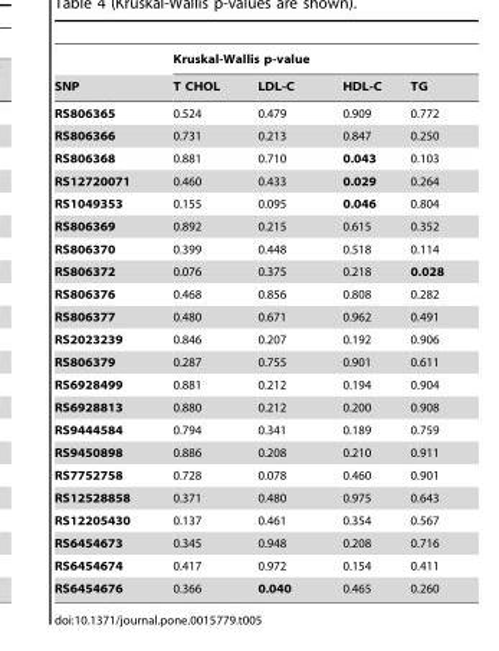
<table><thead><tr><td rowspan="2">SNP</td><td colspan="4">Kruskal-Wallis p-value</td></tr><tr><td>T CHOL</td><td>LDL-C</td><td>HDL-C</td><td>TG</td></tr></thead><tbody><tr><td>RS806365</td><td>0.524</td><td>0.479</td><td>0.909</td><td>0.772</td></tr><tr><td>RS806366</td><td>0.731</td><td>0.213</td><td>0.847</td><td>0.250</td></tr><tr><td>RS806368</td><td>0.881</td><td>0.710</td><td>0.043</td><td>0.103</td></tr><tr><td>RS12720071</td><td>0.460</td><td>0.433</td><td>0.029</td><td>0.264</td></tr><tr><td>RS1049353</td><td>0.155</td><td>0.095</td><td>0.046</td><td>0.804</td></tr><tr><td>RS806369</td><td>0.892</td><td>0.215</td><td>0.615</td><td>0.352</td></tr><tr><td>RS806370</td><td>0.399</td><td>0.448</td><td>0.518</td><td>0.114</td></tr><tr><td>RS806372</td><td>0.076</td><td>0.375</td><td>0.218</td><td>0.028</td></tr><tr><td>RS806376</td><td>0.468</td><td>0.856</td><td>0.808</td><td>0.282</td></tr><tr><td>RS806377</td><td>0.480</td><td>0.671</td><td>0.962</td><td>0.491</td></tr><tr><td>RS2023239</td><td>0.846</td><td>0.207</td><td>0.192</td><td>0.906</td></tr><tr><td>RS806379</td><td>0.287</td><td>0.755</td><td>0.901</td><td>0.611</td></tr><tr><td>RS6928499</td><td>0.881</td><td>0.212</td><td>0.194</td><td>0.904</td></tr><tr><td>RS6928813</td><td>0.880</td><td>0.212</td><td>0.200</td><td>0.908</td></tr><tr><td>RS9444584</td><td>0.794</td><td>0.341</td><td>0.189</td><td>0.759</td></tr><tr><td>RS9450898</td><td>0.886</td><td>0.208</td><td>0.210</td><td>0.911</td></tr><tr><td>RS7752758</td><td>0.728</td><td>0.078</td><td>0.460</td><td>0.901</td></tr><tr><td>RS12528858</td><td>0.371</td><td>0.480</td><td>0.975</td><td>0.643</td></tr><tr><td>RS12205430</td><td>0.137</td><td>0.461</td><td>0.354</td><td>0.567</td></tr><tr><td>RS6454673</td><td>0.345</td><td>0.948</td><td>0.208</td><td>0.716</td></tr><tr><td>RS6454674</td><td>0.417</td><td>0.972</td><td>0.154</td><td>0.411</td></tr><tr><td>RS6454676</td><td>0.366</td><td>0.040</td><td>0.465</td><td>0.260</td></tr></tbody></table>